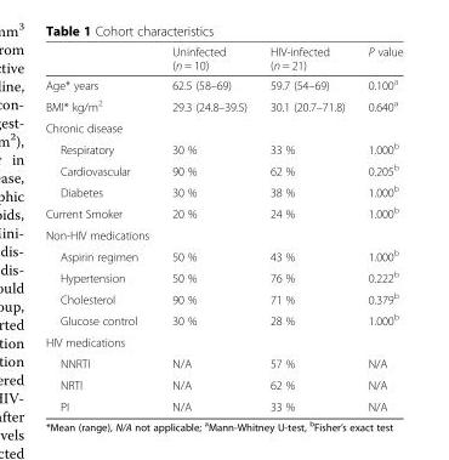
<table><thead><tr><td></td><td>Uninfected (n = 10)</td><td>HIV-infected (n = 21)</td><td>P value</td></tr></thead><tbody><tr><td>Age* years</td><td>62.5 (58–69)</td><td>59.7 (54–69)</td><td>0.100<sup>a</sup></td></tr><tr><td>BMI* kg/m<sup>2</sup></td><td>29.3 (24.8–39.5)</td><td>30.1 (20.7–71.8)</td><td>0.640<sup>a</sup></td></tr><tr><td colspan="4">Chronic disease</td></tr><tr><td>Respiratory</td><td>30 %</td><td>33 %</td><td>1.000<sup>b</sup></td></tr><tr><td>Cardiovascular</td><td>90 %</td><td>62 %</td><td>0.205<sup>b</sup></td></tr><tr><td>Diabetes</td><td>30 %</td><td>38 %</td><td>1.000<sup>b</sup></td></tr><tr><td>Current Smoker</td><td>20 %</td><td>24 %</td><td>1.000<sup>b</sup></td></tr><tr><td colspan="4">Non-HIV medications</td></tr><tr><td>Aspirin regimen</td><td>50 %</td><td>43 %</td><td>1.000<sup>b</sup></td></tr><tr><td>Hypertension</td><td>50 %</td><td>76 %</td><td>0.222<sup>b</sup></td></tr><tr><td>Cholesterol</td><td>90 %</td><td>71 %</td><td>0.379<sup>b</sup></td></tr><tr><td>Glucose control</td><td>30 %</td><td>28 %</td><td>1.000<sup>b</sup></td></tr><tr><td colspan="4">HIV medications</td></tr><tr><td>NNRTI</td><td>N/A</td><td>57 %</td><td>N/A</td></tr><tr><td>NRTI</td><td>N/A</td><td>62 %</td><td>N/A</td></tr><tr><td>PI</td><td>N/A</td><td>33 %</td><td>N/A</td></tr></tbody></table>